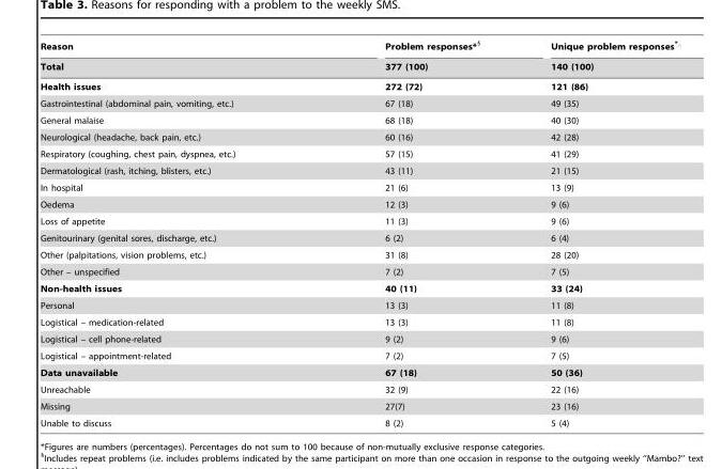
<table><thead><tr><td rowspan="2">Reason Total</td><td rowspan="2">Problem responses*§ 377 (100)</td><td rowspan="2">Unique problem responses*‘ 140 (100)</td></tr><tr></tr></thead><tbody><tr><td>Health issues</td><td>272 (72)</td><td>121 (86)</td></tr><tr><td>Gastrointestinal (abdominal pain, vomiting, etc.)</td><td>67 (18)</td><td>49 (35)</td></tr><tr><td>General malaise</td><td>68 (18)</td><td>40 (30)</td></tr><tr><td>Neurological (headache, back pain, etc.)</td><td>60 (16)</td><td>42 (28)</td></tr><tr><td>Respiratory (coughing, chest pain, dyspnea, etc.)</td><td>57 (15)</td><td>41 (29)</td></tr><tr><td>Dermatological (rash, itching, blisters, etc.)</td><td>43 (11)</td><td>21 (15)</td></tr><tr><td>In hospital</td><td>21 (6)</td><td>13 (9)</td></tr><tr><td>Oedema</td><td>12 (3)</td><td>9 (6)</td></tr><tr><td>Loss of appetite</td><td>11 (3)</td><td>9 (6)</td></tr><tr><td>Genitourinary (genital sores, discharge, etc.)</td><td>6 (2)</td><td>6 (4)</td></tr><tr><td>Other (palpitations, vision problems, etc.)</td><td>31 (8)</td><td>28 (20)</td></tr><tr><td>Other – unspecified</td><td>7 (2)</td><td>7 (5)</td></tr><tr><td>Non-health issues</td><td>40 (11)</td><td>33 (24)</td></tr><tr><td>Personal</td><td>13 (3)</td><td>11 (8)</td></tr><tr><td>Logistical – medication-related</td><td>13 (3)</td><td>11 (8)</td></tr><tr><td>Logistical – cell phone-related</td><td>9 (2)</td><td>9 (6)</td></tr><tr><td>Logistical – appointment-related</td><td>7 (2)</td><td>7 (5)</td></tr><tr><td>Data unavailable</td><td>67 (18)</td><td>50 (36)</td></tr><tr><td>Unreachable</td><td>32 (9)</td><td>22 (16)</td></tr><tr><td>Missing</td><td>27(7)</td><td>23 (16)</td></tr><tr><td>Unable to discuss</td><td>8 (2)</td><td>5 (4)</td></tr></tbody></table>